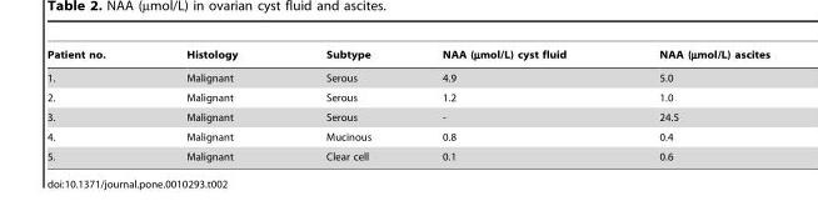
<table><thead><tr><td>Patient no.</td><td>Histology</td><td>Subtype</td><td>NAA (µmol/L) cyst fluid</td><td>NAA (µmol/L) ascites</td></tr></thead><tbody><tr><td>1.</td><td>Malignant</td><td>Serous</td><td>4.9</td><td>5.0</td></tr><tr><td>2.</td><td>Malignant</td><td>Serous</td><td>1.2</td><td>1.0</td></tr><tr><td>3.</td><td>Malignant</td><td>Serous</td><td>-</td><td>24.5</td></tr><tr><td>4.</td><td>Malignant</td><td>Mucinous</td><td>0.8</td><td>0.4</td></tr><tr><td>5.</td><td>Malignant</td><td>Clear cell</td><td>0.1</td><td>0.6</td></tr></tbody></table>